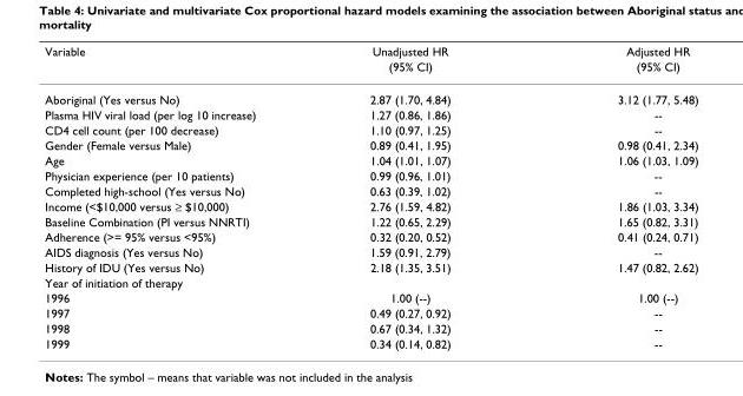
<table><thead><tr><td rowspan="2">Variable</td><td rowspan="2">Unadjusted HR (95% CI)</td><td rowspan="2">Adjusted HR (95% CI)</td></tr><tr></tr></thead><tbody><tr><td>Aboriginal (Yes versus No)</td><td>2.87 (1.70, 4.84)</td><td>3.12 (1.77, 5.48)</td></tr><tr><td>Plasma HIV viral load (per log 10 increase)</td><td>1.27 (0.86, 1.86)</td><td>--</td></tr><tr><td>CD4 cell count (per 100 decrease)</td><td>1.10 (0.97, 1.25)</td><td>--</td></tr><tr><td>Gender (Female versus Male)</td><td>0.89 (0.41, 1.95)</td><td>0.98 (0.41, 2.34)</td></tr><tr><td>Age</td><td>1.04 (1.01, 1.07)</td><td>1.06 (1.03, 1.09)</td></tr><tr><td>Physician experience (per 10 patients)</td><td>0.99 (0.96, 1.01)</td><td>--</td></tr><tr><td>Completed high-school (Yes versus No)</td><td>0.63 (0.39, 1.02)</td><td>--</td></tr><tr><td>Income (&lt;$10,000 versus ≥ $10,000)</td><td>2.76 (1.59, 4.82)</td><td>1.86 (1.03, 3.34)</td></tr><tr><td>Baseline Combination (PI versus NNRTI)</td><td>1.22 (0.65, 2.29)</td><td>1.65 (0.82, 3.31)</td></tr><tr><td>Adherence (&gt;= 95% versus &lt;95%)</td><td>0.32 (0.20, 0.52)</td><td>0.41 (0.24, 0.71)</td></tr><tr><td>AIDS diagnosis (Yes versus No)</td><td>1.59 (0.91, 2.79)</td><td>--</td></tr><tr><td>History of IDU (Yes versus No)</td><td>2.18 (1.35, 3.51)</td><td>1.47 (0.82, 2.62)</td></tr><tr><td colspan="3">Year of initiation of therapy</td></tr><tr><td>1996</td><td>1.00 (--)</td><td>1.00 (--)</td></tr><tr><td>1997</td><td>0.49 (0.27, 0.92)</td><td>--</td></tr><tr><td>1998</td><td>0.67 (0.34, 1.32)</td><td>--</td></tr><tr><td>1999</td><td>0.34 (0.14, 0.82)</td><td>--</td></tr></tbody></table>